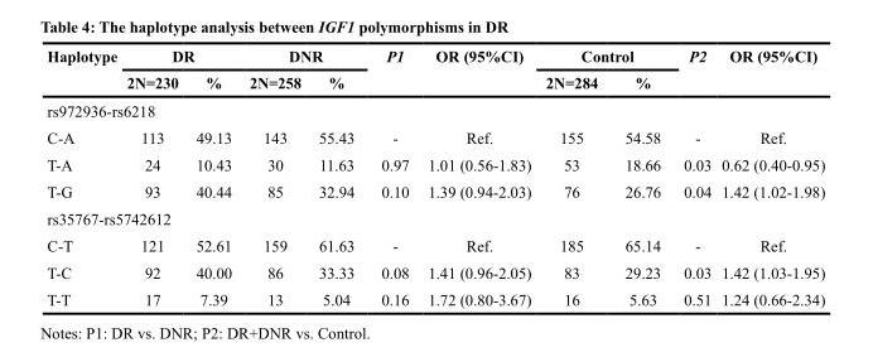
<table><thead><tr><td rowspan="2">Haplotype</td><td colspan="2">DR</td><td colspan="2">DNR</td><td rowspan="2">P1</td><td rowspan="2">OR (95%CI)</td><td colspan="2">Control</td><td rowspan="2">P2</td><td rowspan="2">OR (95%CI)</td></tr><tr><td>2N=230</td><td>%</td><td>2N=258</td><td>%</td><td>2N=284</td><td>%</td></tr></thead><tbody><tr><td colspan="11">rs972936-rs6218</td></tr><tr><td>C-A</td><td>113</td><td>49.13</td><td>143</td><td>55.43</td><td>-</td><td>Ref.</td><td>155</td><td>54.58</td><td>-</td><td>Ref.</td></tr><tr><td>T-A</td><td>24</td><td>10.43</td><td>30</td><td>11.63</td><td>0.97</td><td>1.01 (0.56-1.83)</td><td>53</td><td>18.66</td><td>0.03</td><td>0.62 (0.40-0.95)</td></tr><tr><td>T-G</td><td>93</td><td>40.44</td><td>85</td><td>32.94</td><td>0.10</td><td>1.39 (0.94-2.03)</td><td>76</td><td>26.76</td><td>0.04</td><td>1.42 (1.02-1.98)</td></tr><tr><td colspan="11">rs35767-rs5742612</td></tr><tr><td>C-T</td><td>121</td><td>52.61</td><td>159</td><td>61.63</td><td>-</td><td>Ref.</td><td>185</td><td>65.14</td><td>-</td><td>Ref.</td></tr><tr><td>T-C</td><td>92</td><td>40.00</td><td>86</td><td>33.33</td><td>0.08</td><td>1.41 (0.96-2.05)</td><td>83</td><td>29.23</td><td>0.03</td><td>1.42 (1.03-1.95)</td></tr><tr><td>T-T</td><td>17</td><td>7.39</td><td>13</td><td>5.04</td><td>0.16</td><td>1.72 (0.80-3.67)</td><td>16</td><td>5.63</td><td>0.51</td><td>1.24 (0.66-2.34)</td></tr></tbody></table>